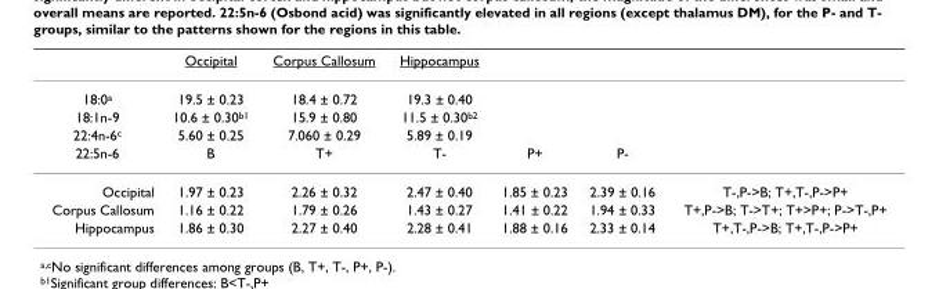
<table><thead><tr><td></td><td>Occipital</td><td>Corpus Callosum</td><td>Hippocampus</td><td></td><td></td><td></td></tr></thead><tbody><tr><td>18:0<sup>a</sup></td><td>19.5 ± 0.23</td><td>18.4 ± 0.72</td><td>19.3 ± 0.40</td><td></td><td></td><td></td></tr><tr><td>18:1n-9</td><td>10.6 ± 0.30<sup>b1</sup></td><td>15.9 ± 0.80</td><td>11.5 ± 0.30<sup>b2</sup></td><td></td><td></td><td></td></tr><tr><td>22:4n-6<sup>c</sup></td><td>5.60 ± 0.25</td><td>7.060 ± 0.29</td><td>5.89 ± 0.19</td><td></td><td></td><td></td></tr><tr><td>22:5n-6</td><td>B</td><td>T+</td><td>T-</td><td>P+</td><td>P-</td><td></td></tr><tr><td>Occipital</td><td>1.97 ± 0.23</td><td>2.26 ± 0.32</td><td>2.47 ± 0.40</td><td>1.85 ± 0.23</td><td>2.39 ± 0.16</td><td>T-,P-&gt;B; T+,T-,P-&gt;P+</td></tr><tr><td>Corpus Callosum</td><td>1.16 ± 0.22</td><td>1.79 ± 0.26</td><td>1.43 ± 0.27</td><td>1.41 ± 0.22</td><td>1.94 ± 0.33</td><td>T+,P-&gt;B; T-&gt;T+; T+&gt;P+; P-&gt;T-,P+</td></tr><tr><td>Hippocampus</td><td>1.86 ± 0.30</td><td>2.27 ± 0.40</td><td>2.28 ± 0.41</td><td>1.88 ± 0.16</td><td>2.33 ± 0.14</td><td>T+,T-,P-&gt;B; T+,T-,P-&gt;P+</td></tr></tbody></table>